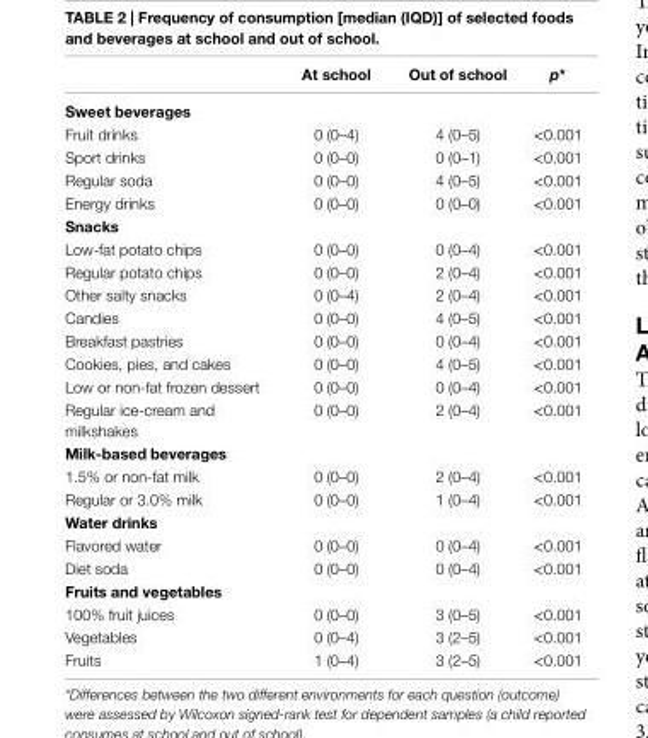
<table><thead><tr><td></td><td>at school</td><td>Out of school</td><td>p*</td></tr></thead><tbody><tr><td colspan="4">sweet beverages</td></tr><tr><td>Fruit drinks</td><td>0 (0–4)</td><td>4 (0–5)</td><td>&lt;0.001</td></tr><tr><td>Sport drinks</td><td>0 (0–0)</td><td>0 (0–1)</td><td>&lt;0.001</td></tr><tr><td>Regular soda</td><td>0 (0–0)</td><td>4 (0–5)</td><td>&lt;0.001</td></tr><tr><td>Energy drinks</td><td>0 (0–0)</td><td>0 (0–0)</td><td>&lt;0.001</td></tr><tr><td colspan="4">snacks</td></tr><tr><td>Low-fat potato chips</td><td>0 (0–0)</td><td>0 (0–4)</td><td>&lt;0.001</td></tr><tr><td>Regular potato chips</td><td>0 (0–0)</td><td>2 (0–4)</td><td>&lt;0.001</td></tr><tr><td>Other salty snacks</td><td>0 (0–4)</td><td>2 (0–4)</td><td>&lt;0.001</td></tr><tr><td>Candies</td><td>0 (0–0)</td><td>4 (0–5)</td><td>&lt;0.001</td></tr><tr><td>Breakfast pastries</td><td>0 (0–0)</td><td>0 (0–4)</td><td>&lt;0.001</td></tr><tr><td>Cookies, pies, and cakes</td><td>0 (0–0)</td><td>4 (0–5)</td><td>&lt;0.001</td></tr><tr><td>Low or non-fat frozen dessert</td><td>0 (0–0)</td><td>0 (0–4)</td><td>&lt;0.001</td></tr><tr><td>Regular ice-cream and milkshakes</td><td>0 (0–0)</td><td>2 (0–4)</td><td>&lt;0.001</td></tr><tr><td colspan="4">Milk-based beverages</td></tr><tr><td>1.5% or non-fat milk</td><td>0 (0–0)</td><td>2 (0–4)</td><td>&lt;0.001</td></tr><tr><td>Regular or 3.0% milk</td><td>0 (0–0)</td><td>1 (0–4)</td><td>&lt;0.001</td></tr><tr><td colspan="4">Water drinks</td></tr><tr><td>Flavored water</td><td>0 (0–0)</td><td>0 (0–4)</td><td>&lt;0.001</td></tr><tr><td>Diet soda</td><td>0 (0–0)</td><td>0 (0–4)</td><td>&lt;0.001</td></tr><tr><td colspan="4">Fruits and vegetables</td></tr><tr><td>100% fruit juices</td><td>0 (0–0)</td><td>3 (0–5)</td><td>&lt;0.001</td></tr><tr><td>Vegetables</td><td>0 (0–4)</td><td>3 (2–5)</td><td>&lt;0.001</td></tr><tr><td>Fruits</td><td>1 (0–4)</td><td>3 (2–5)</td><td>&lt;0.001</td></tr></tbody></table>